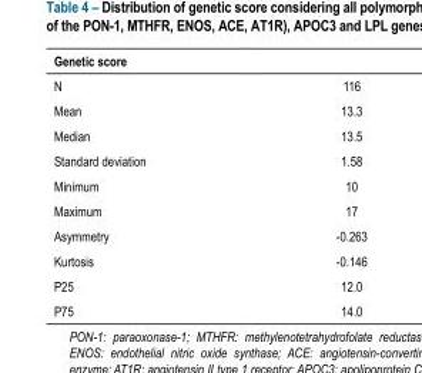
<table><thead><tr><td>Genetic score</td><td></td></tr></thead><tbody><tr><td>N</td><td>116</td></tr><tr><td>Mean</td><td>13.3</td></tr><tr><td>Median</td><td>13.5</td></tr><tr><td>Standard deviation</td><td>1.58</td></tr><tr><td>Minimum</td><td>10</td></tr><tr><td>Maximum</td><td>17</td></tr><tr><td>Asymmetry</td><td>-0.263</td></tr><tr><td>Kurtosis</td><td>-0.146</td></tr><tr><td>P25</td><td>12.0</td></tr><tr><td>P75</td><td>14.0</td></tr></tbody></table>